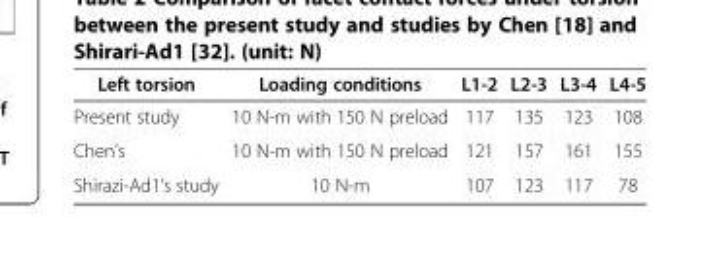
<table><thead><tr><td>Left torsion</td><td>Loading conditions</td><td>L1-2</td><td>L2-3</td><td>L3-4</td><td>L4-5</td></tr></thead><tbody><tr><td>Present study</td><td>10 N-m with 150 N preload</td><td>117</td><td>135</td><td>123</td><td>108</td></tr><tr><td>Chen’s</td><td>10 N-m with 150 N preload</td><td>121</td><td>157</td><td>161</td><td>155</td></tr><tr><td>Shirazi-Ad1’s study</td><td>10 N-m</td><td>107</td><td>123</td><td>117</td><td>78</td></tr></tbody></table>